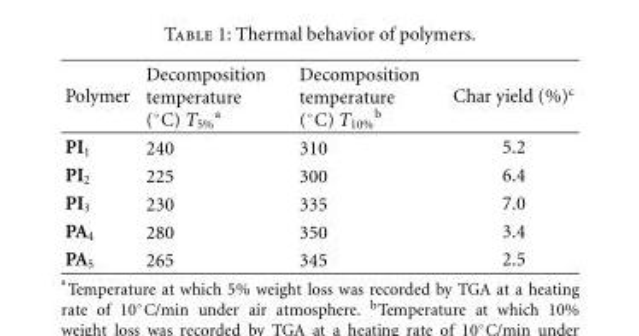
<table><thead><tr><td>Polymer</td><td>Decomposition temperature (◦C) T5% a</td><td>Decomposition temperature (◦C) T10% b</td><td>Char yield (%)<sup>c</sup></td></tr></thead><tbody><tr><td>PI<sub>1</sub></td><td>240</td><td>310</td><td>5.2</td></tr><tr><td>PI<sub>2</sub></td><td>225</td><td>300</td><td>6.4</td></tr><tr><td>PI<sub>3</sub></td><td>230</td><td>335</td><td>7.0</td></tr><tr><td>PA<sub>4</sub></td><td>280</td><td>350</td><td>3.4</td></tr><tr><td>PA<sub>5</sub></td><td>265</td><td>345</td><td>2.5</td></tr></tbody></table>